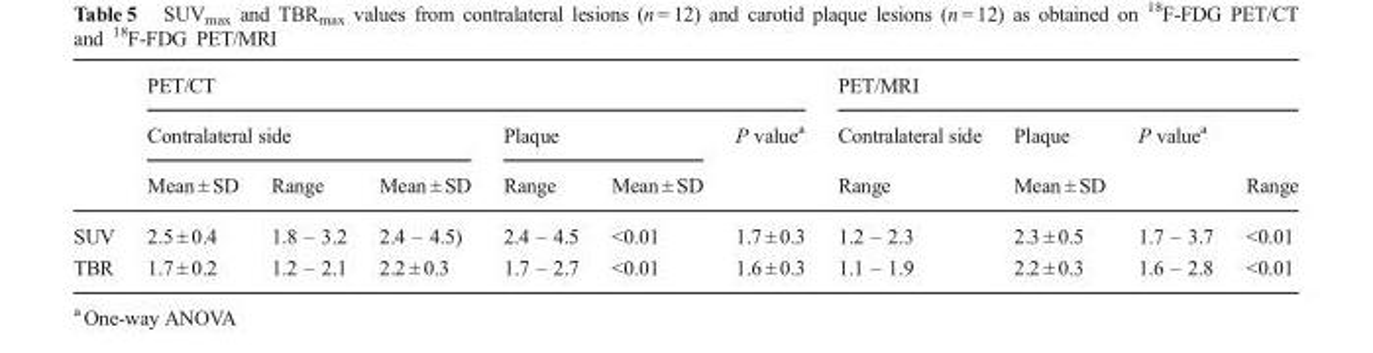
<table><thead><tr><td rowspan="3"></td><td colspan="6">PET/CT</td><td colspan="4">PET/MRI</td></tr><tr><td colspan="3">Contralateral side</td><td colspan="2">Plaque</td><td rowspan="2">P value<sup>a</sup></td><td rowspan="2">Contralateral side Range</td><td rowspan="2">Plaque Mean ± SD</td><td rowspan="2">P value<sup>a</sup></td><td rowspan="2">Range</td></tr><tr><td>Mean ± SD</td><td>Range</td><td>Mean ± SD</td><td>Range</td><td>Mean ± SD</td></tr></thead><tbody><tr><td>SUV</td><td>2.5 ± 0.4</td><td>1.8 – 3.2</td><td>2.4 – 4.5)</td><td>2.4 – 4.5</td><td>&lt;0.01</td><td>1.7 ± 0.3</td><td>1.2 – 2.3</td><td>2.3 ± 0.5</td><td>1.7 – 3.7</td><td>&lt;0.01</td></tr><tr><td>TBR</td><td>1.7 ± 0.2</td><td>1.2 – 2.1</td><td>2.2 ± 0.3</td><td>1.7 – 2.7</td><td>&lt;0.01</td><td>1.6 ± 0.3</td><td>1.1 – 1.9</td><td>2.2 ± 0.3</td><td>1.6 – 2.8</td><td>&lt;0.01</td></tr></tbody></table>